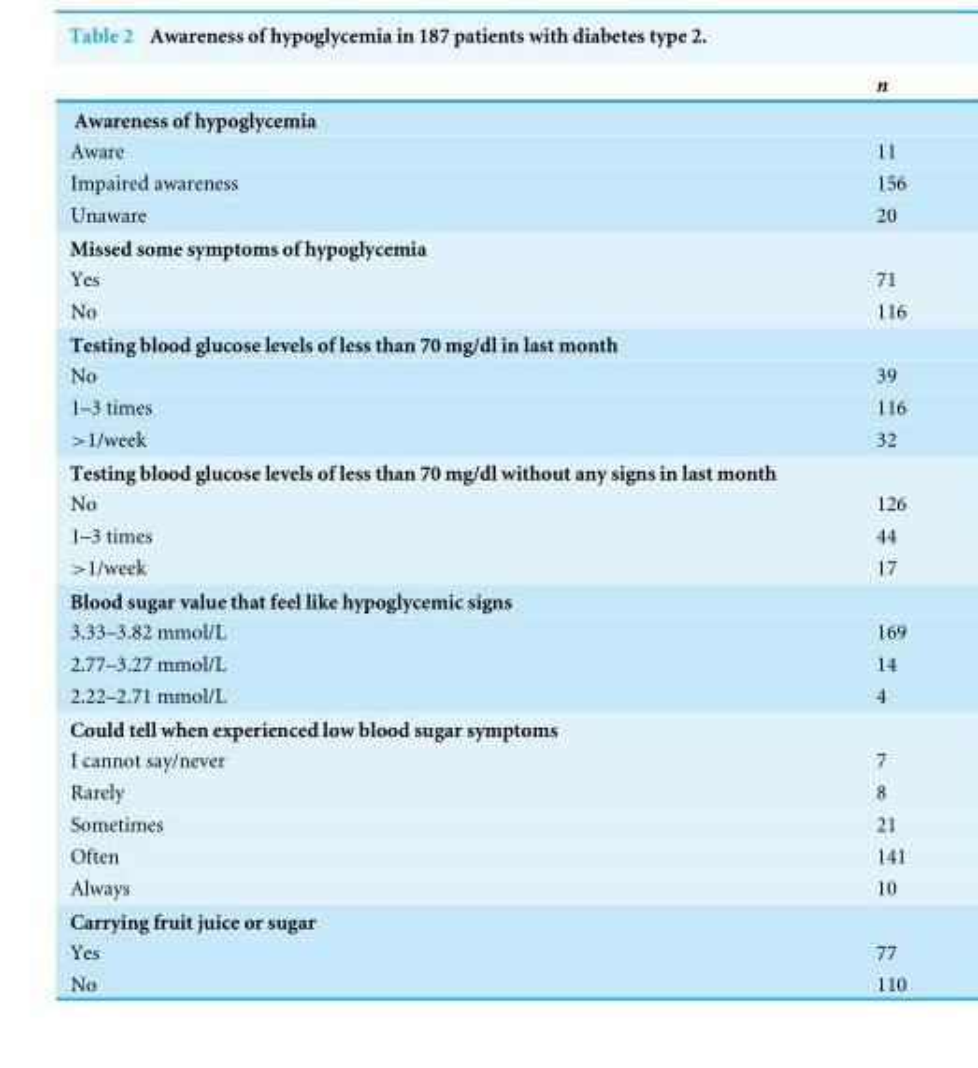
<table><thead><tr><td></td><td>n</td></tr></thead><tbody><tr><td colspan="2">Awareness of hypoglycemia</td></tr><tr><td>Aware</td><td>11</td></tr><tr><td>Impaired awareness</td><td>156</td></tr><tr><td>Unaware</td><td>20</td></tr><tr><td colspan="2">Missed some symptoms of hypoglycemia</td></tr><tr><td>Yes</td><td>71</td></tr><tr><td>No</td><td>116</td></tr><tr><td colspan="2">Testing blood glucose levels of less than 70 mg/dl in last month</td></tr><tr><td>No</td><td>39</td></tr><tr><td>1–3 times</td><td>116</td></tr><tr><td>&gt;1/week</td><td>32</td></tr><tr><td colspan="2">Testing blood glucose levels of less than 70 mg/dl without any signs in last month</td></tr><tr><td>No</td><td>126</td></tr><tr><td>1–3 times</td><td>44</td></tr><tr><td>&gt;1/week</td><td>17</td></tr><tr><td colspan="2">Blood sugar value that feel like hypoglycemic signs</td></tr><tr><td>3.33–3.82 mmol/L</td><td>169</td></tr><tr><td>2.77–3.27 mmol/L</td><td>14</td></tr><tr><td>2.22–2.71 mmol/L</td><td>4</td></tr><tr><td colspan="2">Could tell when experienced low blood sugar symptoms</td></tr><tr><td>I cannot say/never</td><td>7</td></tr><tr><td>Rarely</td><td>8</td></tr><tr><td>Sometimes</td><td>21</td></tr><tr><td>Often</td><td>141</td></tr><tr><td>Always</td><td>10</td></tr><tr><td colspan="2">Carrying fruit juice or sugar</td></tr><tr><td>Yes</td><td>77</td></tr><tr><td>No</td><td>110</td></tr></tbody></table>